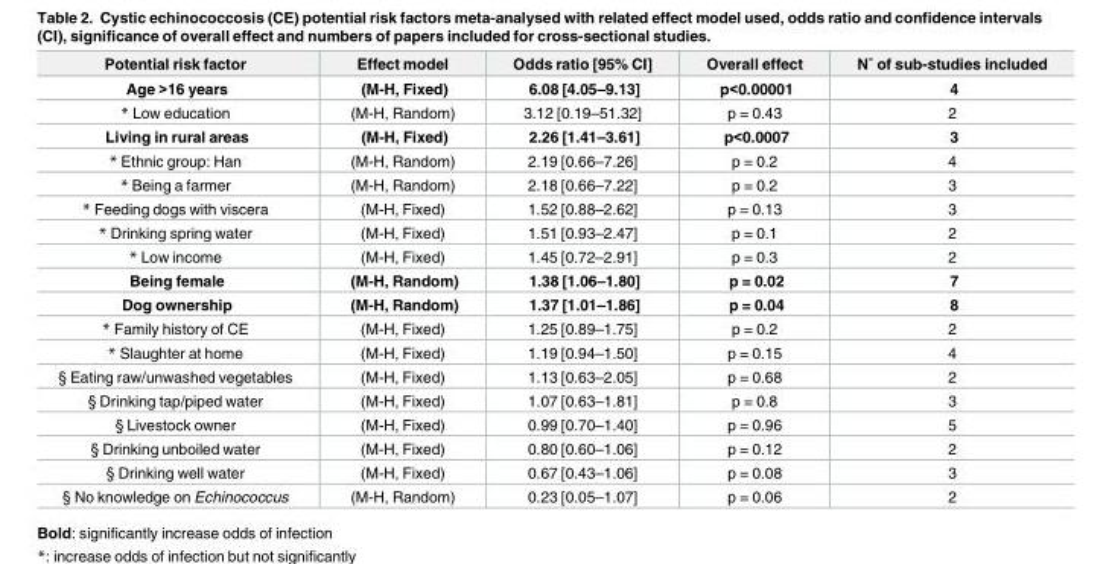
<table><thead><tr><td>Potential risk factor</td><td>Effect model</td><td>Odds ratio [95% CI]</td><td>Overall effect</td><td>N˚ of sub-studies included</td></tr></thead><tbody><tr><td>Age &gt;16 years</td><td>(M-H, Fixed)</td><td>6.08 [4.05–9.13]</td><td>p&lt;0.00001</td><td>4</td></tr><tr><td>* Low education</td><td>(M-H, Random)</td><td>3.12 [0.19–51.32]</td><td>p = 0.43</td><td>2</td></tr><tr><td>Living in rural areas</td><td>(M-H, Fixed)</td><td>2.26 [1.41–3.61]</td><td>p&lt;0.0007</td><td>3</td></tr><tr><td>* Ethnic group: Han</td><td>(M-H, Random)</td><td>2.19 [0.66–7.26]</td><td>p = 0.2</td><td>4</td></tr><tr><td>* Being a farmer</td><td>(M-H, Random)</td><td>2.18 [0.66–7.22]</td><td>p = 0.2</td><td>3</td></tr><tr><td>* Feeding dogs with viscera</td><td>(M-H, Fixed)</td><td>1.52 [0.88–2.62]</td><td>p = 0.13</td><td>3</td></tr><tr><td>* Drinking spring water</td><td>(M-H, Fixed)</td><td>1.51 [0.93–2.47]</td><td>p = 0.1</td><td>2</td></tr><tr><td>* Low income</td><td>(M-H, Fixed)</td><td>1.45 [0.72–2.91]</td><td>p = 0.3</td><td>2</td></tr><tr><td>Being female</td><td>(M-H, Random)</td><td>1.38 [1.06–1.80]</td><td>p = 0.02</td><td>7</td></tr><tr><td>Dog ownership</td><td>(M-H, Random)</td><td>1.37 [1.01–1.86]</td><td>p = 0.04</td><td>8</td></tr><tr><td>* Family history of CE</td><td>(M-H, Fixed)</td><td>1.25 [0.89–1.75]</td><td>p = 0.2</td><td>2</td></tr><tr><td>* Slaughter at home</td><td>(M-H, Fixed)</td><td>1.19 [0.94–1.50]</td><td>p = 0.15</td><td>4</td></tr><tr><td>§ Eating raw/unwashed vegetables</td><td>(M-H, Fixed)</td><td>1.13 [0.63–2.05]</td><td>p = 0.68</td><td>2</td></tr><tr><td>§ Drinking tap/piped water</td><td>(M-H, Fixed)</td><td>1.07 [0.63–1.81]</td><td>p = 0.8</td><td>3</td></tr><tr><td>§ Livestock owner</td><td>(M-H, Fixed)</td><td>0.99 [0.70–1.40]</td><td>p = 0.96</td><td>5</td></tr><tr><td>§ Drinking unboiled water</td><td>(M-H, Fixed)</td><td>0.80 [0.60–1.06]</td><td>p = 0.12</td><td>2</td></tr><tr><td>§ Drinking well water</td><td>(M-H, Fixed)</td><td>0.67 [0.43–1.06]</td><td>p = 0.08</td><td>3</td></tr><tr><td>§ No knowledge on Echinococcus</td><td>(M-H, Random)</td><td>0.23 [0.05–1.07]</td><td>p = 0.06</td><td>2</td></tr></tbody></table>